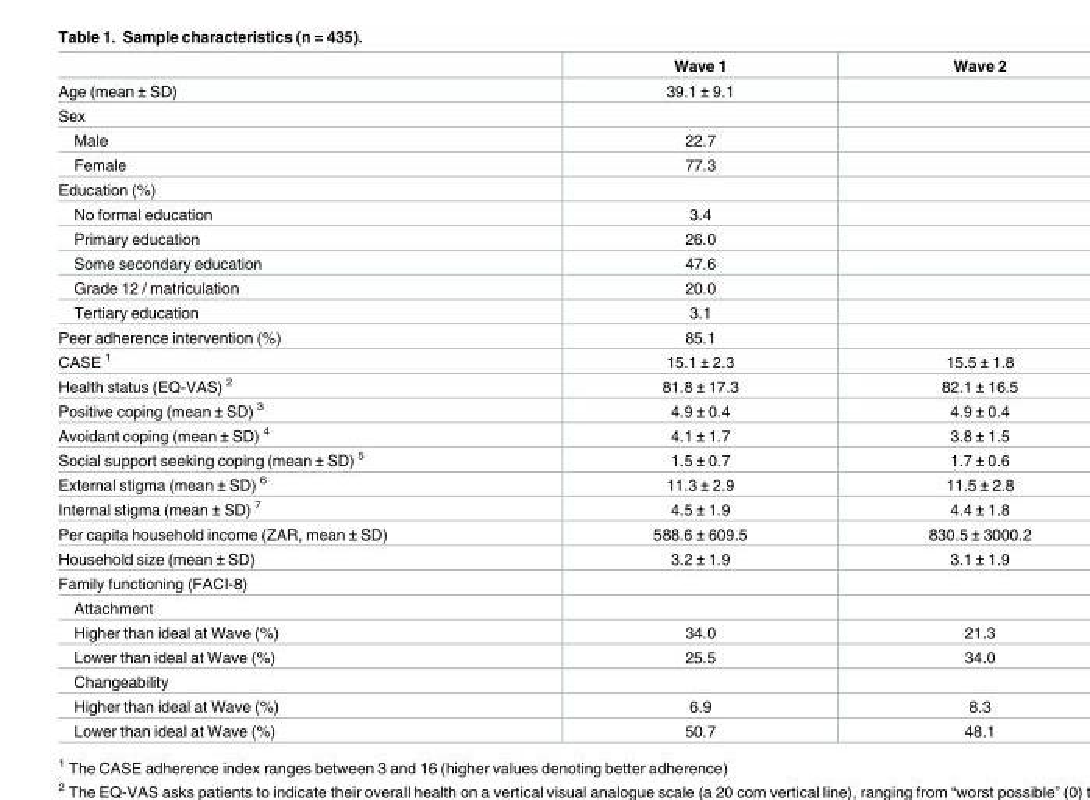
<table><thead><tr><td></td><td>Wave 1</td><td>Wave 2</td></tr></thead><tbody><tr><td>Age (mean ± SD)</td><td>39.1 ± 9.1</td><td></td></tr><tr><td colspan="3">Sex</td></tr><tr><td>Male</td><td>22.7</td><td></td></tr><tr><td>Female</td><td>77.3</td><td></td></tr><tr><td colspan="3">Education (%)</td></tr><tr><td>No formal education</td><td>3.4</td><td></td></tr><tr><td>Primary education</td><td>26.0</td><td></td></tr><tr><td>Some secondary education</td><td>47.6</td><td></td></tr><tr><td>Grade 12 / matriculation</td><td>20.0</td><td></td></tr><tr><td>Tertiary education</td><td>3.1</td><td></td></tr><tr><td>Peer adherence intervention (%)</td><td>85.1</td><td></td></tr><tr><td>CASE <sup>1</sup></td><td>15.1 ± 2.3</td><td>15.5 ± 1.8</td></tr><tr><td>Health status (EQ-VAS) <sup>2</sup></td><td>81.8 ± 17.3</td><td>82.1 ± 16.5</td></tr><tr><td>Positive coping (mean ± SD) <sup>3</sup></td><td>4.9 ± 0.4</td><td>4.9 ± 0.4</td></tr><tr><td>Avoidant coping (mean ± SD) <sup>4</sup></td><td>4.1 ± 1.7</td><td>3.8 ± 1.5</td></tr><tr><td>Social support seeking coping (mean ± SD) <sup>5</sup></td><td>1.5 ± 0.7</td><td>1.7 ± 0.6</td></tr><tr><td>External stigma (mean ± SD) <sup>6</sup></td><td>11.3 ± 2.9</td><td>11.5 ± 2.8</td></tr><tr><td>Internal stigma (mean ± SD) <sup>7</sup></td><td>4.5 ± 1.9</td><td>4.4 ± 1.8</td></tr><tr><td>Per capita household income (ZAR, mean ± SD)</td><td>588.6 ± 609.5</td><td>830.5 ± 3000.2</td></tr><tr><td>Household size (mean ± SD)</td><td>3.2 ± 1.9</td><td>3.1 ± 1.9</td></tr><tr><td colspan="3">Family functioning (FACI-8)</td></tr><tr><td colspan="3">Attachment</td></tr><tr><td>Higher than ideal at Wave (%)</td><td>34.0</td><td>21.3</td></tr><tr><td>Lower than ideal at Wave (%)</td><td>25.5</td><td>34.0</td></tr><tr><td colspan="3">Changeability</td></tr><tr><td>Higher than ideal at Wave (%)</td><td>6.9</td><td>8.3</td></tr><tr><td>Lower than ideal at Wave (%)</td><td>50.7</td><td>48.1</td></tr></tbody></table>